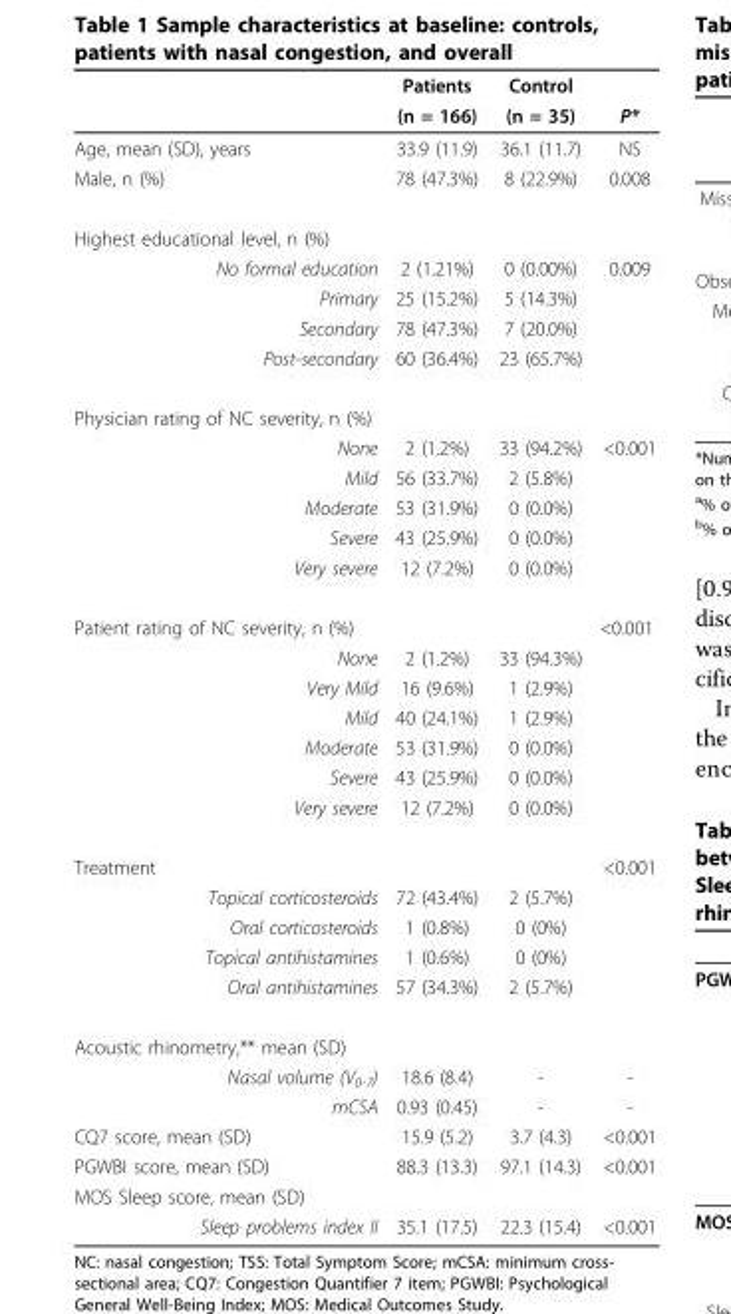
<table><thead><tr><td rowspan="2"></td><td rowspan="2">Patients (n = 166)</td><td rowspan="2">Control (n = 35)</td><td rowspan="2">P*</td></tr><tr></tr></thead><tbody><tr><td>Age, mean (SD), years</td><td>33.9 (11.9)</td><td>36.1 (11.7)</td><td>NS</td></tr><tr><td>Male, n (%)</td><td>78 (47.3%)</td><td>8 (22.9%)</td><td>0.008</td></tr><tr><td colspan="4">Highest educational level, n (%)</td></tr><tr><td>No formal education</td><td>2 (1.21%)</td><td>0 (0.00%)</td><td>0.009</td></tr><tr><td>Primary</td><td>25 (15.2%)</td><td>5 (14.3%)</td><td></td></tr><tr><td>Secondary</td><td>78 (47.3%)</td><td>7 (20.0%)</td><td></td></tr><tr><td>Post-secondary</td><td>60 (36.4%)</td><td>23 (65.7%)</td><td></td></tr><tr><td colspan="4">Physician rating of NC severity, n (%)</td></tr><tr><td>None</td><td>2 (1.2%)</td><td>33 (94.2%)</td><td>&lt;0.001</td></tr><tr><td>Mild</td><td>56 (33.7%)</td><td>2 (5.8%)</td><td></td></tr><tr><td>Moderate</td><td>53 (31.9%)</td><td>0 (0.0%)</td><td></td></tr><tr><td>Severe</td><td>43 (25.9%)</td><td>0 (0.0%)</td><td></td></tr><tr><td>Very severe</td><td>12 (7.2%)</td><td>0 (0.0%)</td><td></td></tr><tr><td>Patient rating of NC severity, n (%)</td><td></td><td></td><td>&lt;0.001</td></tr><tr><td>None</td><td>2 (1.2%)</td><td>33 (94.3%)</td><td></td></tr><tr><td>Very Mild</td><td>16 (9.6%)</td><td>1 (2.9%)</td><td></td></tr><tr><td>Mild</td><td>40 (24.1%)</td><td>1 (2.9%)</td><td></td></tr><tr><td>Moderate</td><td>53 (31.9%)</td><td>0 (0.0%)</td><td></td></tr><tr><td>Severe</td><td>43 (25.9%)</td><td>0 (0.0%)</td><td></td></tr><tr><td>Very severe</td><td>12 (7.2%)</td><td>0 (0.0%)</td><td></td></tr><tr><td>Treatment</td><td></td><td></td><td>&lt;0.001</td></tr><tr><td>Topical corticosteroids</td><td>72 (43.4%)</td><td>2 (5.7%)</td><td></td></tr><tr><td>Oral corticosteroids</td><td>1 (0.8%)</td><td>0 (0%)</td><td></td></tr><tr><td>Topical antihistamines</td><td>1 (0.6%)</td><td>0 (0%)</td><td></td></tr><tr><td>Oral antihistamines</td><td>57 (34.3%)</td><td>2 (5.7%)</td><td></td></tr><tr><td colspan="4">Acoustic rhinometry,** mean (SD)</td></tr><tr><td>Nasal volume (V<sub>0-7</sub>)</td><td>18.6 (8.4)</td><td>-</td><td>-</td></tr><tr><td>mCSA</td><td>0.93 (0.45)</td><td>-</td><td>-</td></tr><tr><td>CQ7 score, mean (SD)</td><td>15.9 (5.2)</td><td>3.7 (4.3)</td><td>&lt;0.001</td></tr><tr><td>PGWBI score, mean (SD)</td><td>88.3 (13.3)</td><td>97.1 (14.3)</td><td>&lt;0.001</td></tr><tr><td colspan="4">MOS Sleep score, mean (SD)</td></tr><tr><td>Sleep problems index II</td><td>35.1 (17.5)</td><td>22.3 (15.4)</td><td>&lt;0.001</td></tr></tbody></table>